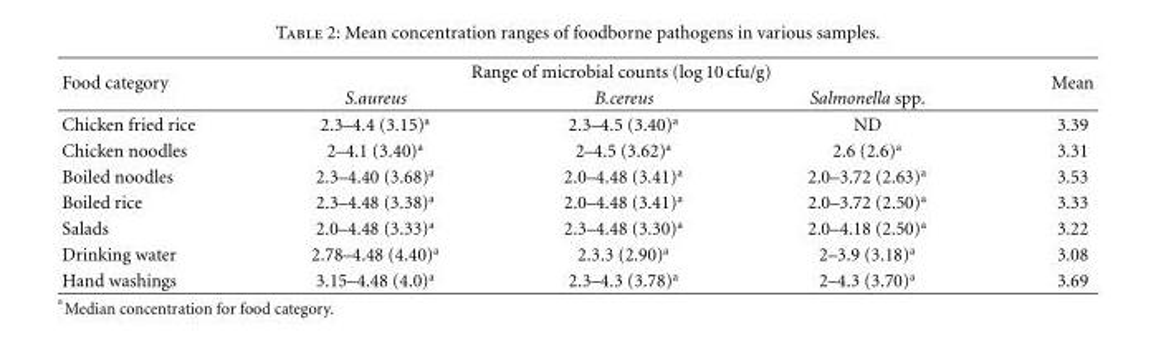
<table><thead><tr><td rowspan="2">Food category</td><td colspan="3">Range of microbial counts (log 10 cfu/g)</td><td rowspan="2">Mean</td></tr><tr><td>S.aureus</td><td>B.cereus</td><td>Salmonella spp.</td></tr></thead><tbody><tr><td>Chicken fried rice</td><td>2.3–4.4 (3.15)<sup>a</sup></td><td>2.3–4.5 (3.40)<sup>a</sup></td><td>ND</td><td>3.39</td></tr><tr><td>Chicken noodles</td><td>2–4.1 (3.40)<sup>a</sup></td><td>2–4.5 (3.62)<sup>a</sup></td><td>2.6 (2.6)<sup>a</sup></td><td>3.31</td></tr><tr><td>Boiled noodles</td><td>2.3–4.40 (3.68)<sup>a</sup></td><td>2.0–4.48 (3.41)<sup>a</sup></td><td>2.0–3.72 (2.63)<sup>a</sup></td><td>3.53</td></tr><tr><td>Boiled rice</td><td>2.3–4.48 (3.38)<sup>a</sup></td><td>2.0–4.48 (3.41)<sup>a</sup></td><td>2.0–3.72 (2.50)<sup>a</sup></td><td>3.33</td></tr><tr><td>Salads</td><td>2.0–4.48 (3.33)<sup>a</sup></td><td>2.3–4.48 (3.30)<sup>a</sup></td><td>2.0–4.18 (2.50)<sup>a</sup></td><td>3.22</td></tr><tr><td>Drinking water</td><td>2.78–4.48 (4.40)<sup>a</sup></td><td>2.3.3 (2.90)<sup>a</sup></td><td>2–3.9 (3.18)<sup>a</sup></td><td>3.08</td></tr><tr><td>Hand washings</td><td>3.15–4.48 (4.0)<sup>a</sup></td><td>2.3–4.3 (3.78)<sup>a</sup></td><td>2–4.3 (3.70)<sup>a</sup></td><td>3.69</td></tr></tbody></table>